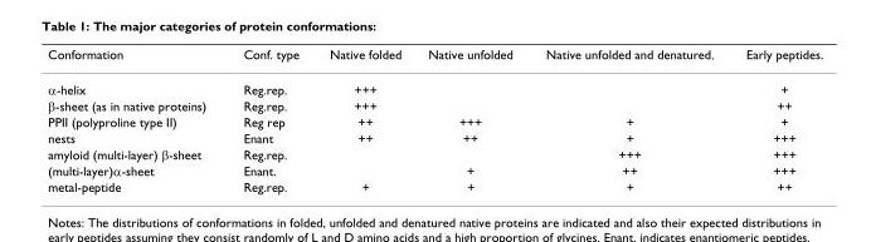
<table><thead><tr><td>Conformation</td><td>Conf. type</td><td>Native folded</td><td>Native unfolded</td><td>Native unfolded and denatured.</td><td>Early peptides.</td></tr></thead><tbody><tr><td>α-helix</td><td>Reg.rep.</td><td>+++</td><td></td><td></td><td>+</td></tr><tr><td>β-sheet (as in native proteins)</td><td>Reg.rep.</td><td>+++</td><td></td><td></td><td>++</td></tr><tr><td>PPII (polyproline type II)</td><td>Reg rep</td><td>++</td><td>+++</td><td>+</td><td>+</td></tr><tr><td>nests</td><td>Enant</td><td>++</td><td>++</td><td>+</td><td>+++</td></tr><tr><td>amyloid (multi-layer) β-sheet</td><td>Reg.rep.</td><td></td><td></td><td>+++</td><td>+++</td></tr><tr><td>(multi-layer)α-sheet</td><td>Enant.</td><td></td><td>+</td><td>++</td><td>+++</td></tr><tr><td>metal-peptide</td><td>Reg.rep.</td><td>+</td><td>+</td><td>+</td><td>++</td></tr></tbody></table>